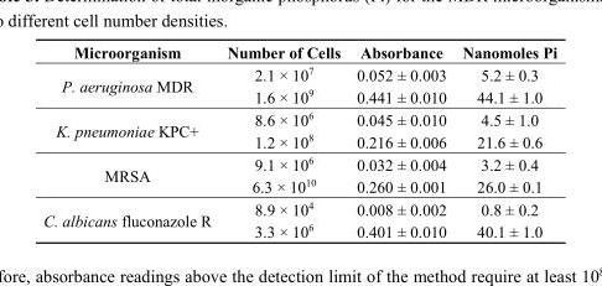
<table><thead><tr><td>Microorganism</td><td>Number of Cells</td><td>Absorbance</td><td>Nanomoles Pi</td></tr></thead><tbody><tr><td rowspan="2">P. aeruginosa MDR</td><td>2.1 × 10<sup>7</sup></td><td>0.052 ± 0.003</td><td>5.2 ± 0.3</td></tr><tr><td>1.6 × 10<sup>9</sup></td><td>0.441 ± 0.010</td><td>44.1 ± 1.0</td></tr><tr><td rowspan="2">K. pneumoniae KPC+</td><td>8.6 × 10<sup>6</sup></td><td>0.045 ± 0.010</td><td>4.5 ± 1.0</td></tr><tr><td>1.2 × 10<sup>8</sup></td><td>0.216 ± 0.006</td><td>21.6 ± 0.6</td></tr><tr><td rowspan="2">MRSA</td><td>9.1 × 10<sup>6</sup></td><td>0.032 ± 0.004</td><td>3.2 ± 0.4</td></tr><tr><td>6.3 × 10<sup>10</sup></td><td>0.260 ± 0.001</td><td>26.0 ± 0.1</td></tr><tr><td rowspan="2">C. albicans fluconazole R</td><td>8.9 × 10<sup>4</sup></td><td>0.008 ± 0.002</td><td>0.8 ± 0.2</td></tr><tr><td>3.3 × 10<sup>6</sup></td><td>0.401 ± 0.010</td><td>40.1 ± 1.0</td></tr></tbody></table>